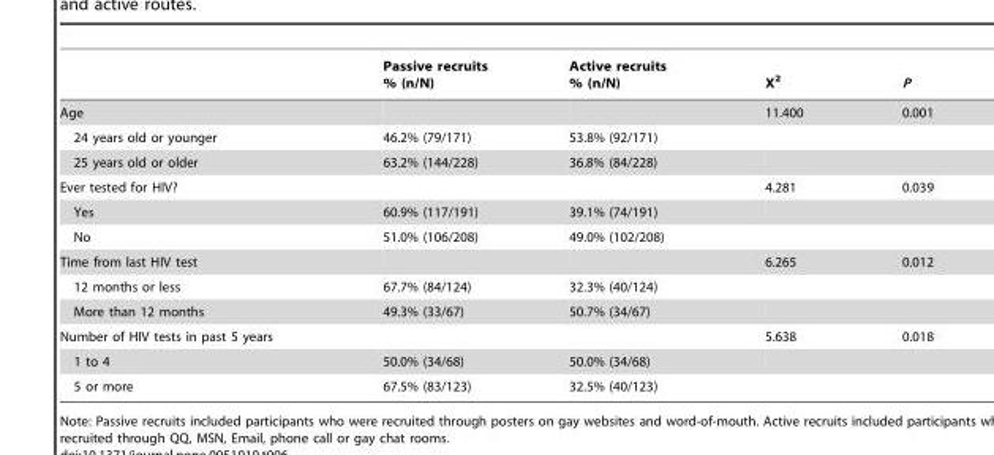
<table><thead><tr><td></td><td>Passive recruits % (n/N)</td><td>Active recruits % (n/N)</td><td>X<sup>2</sup></td><td>P</td></tr></thead><tbody><tr><td>Age</td><td></td><td></td><td>11.400</td><td>0.001</td></tr><tr><td>24 years old or younger</td><td>46.2% (79/171)</td><td>53.8% (92/171)</td><td></td><td></td></tr><tr><td>25 years old or older</td><td>63.2% (144/228)</td><td>36.8% (84/228)</td><td></td><td></td></tr><tr><td>Ever tested for HIV?</td><td></td><td></td><td>4.281</td><td>0.039</td></tr><tr><td>Yes</td><td>60.9% (117/191)</td><td>39.1% (74/191)</td><td></td><td></td></tr><tr><td>No</td><td>51.0% (106/208)</td><td>49.0% (102/208)</td><td></td><td></td></tr><tr><td>Time from last HIV test</td><td></td><td></td><td>6.265</td><td>0.012</td></tr><tr><td>12 months or less</td><td>67.7% (84/124)</td><td>32.3% (40/124)</td><td></td><td></td></tr><tr><td>More than 12 months</td><td>49.3% (33/67)</td><td>50.7% (34/67)</td><td></td><td></td></tr><tr><td>Number of HIV tests in past 5 years</td><td></td><td></td><td>5.638</td><td>0.018</td></tr><tr><td>1 to 4</td><td>50.0% (34/68)</td><td>50.0% (34/68)</td><td></td><td></td></tr><tr><td>5 or more</td><td>67.5% (83/123)</td><td>32.5% (40/123)</td><td></td><td></td></tr></tbody></table>